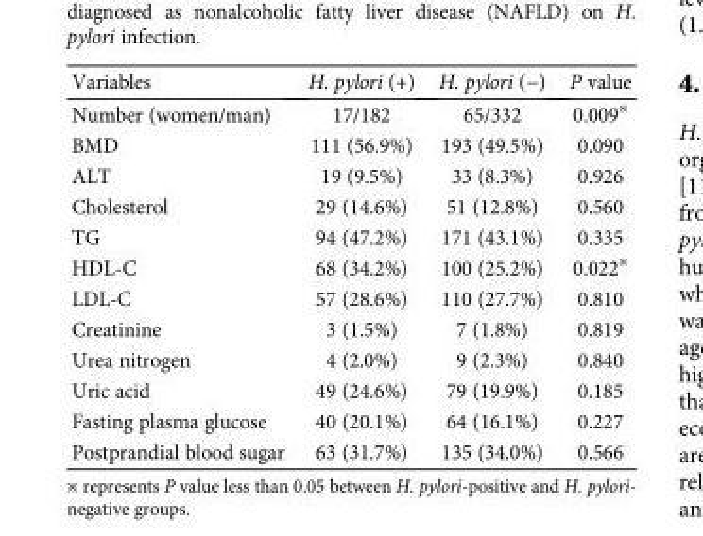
<table><thead><tr><td>Variables</td><td>H. pylori (+)</td><td>H. pylori (−)</td><td>P value</td></tr></thead><tbody><tr><td>Number (women/man)</td><td>17/182</td><td>65/332</td><td>0.009<sup>※</sup></td></tr><tr><td>BMD</td><td>111 (56.9%)</td><td>193 (49.5%)</td><td>0.090</td></tr><tr><td>ALT</td><td>19 (9.5%)</td><td>33 (8.3%)</td><td>0.926</td></tr><tr><td>Cholesterol</td><td>29 (14.6%)</td><td>51 (12.8%)</td><td>0.560</td></tr><tr><td>TG</td><td>94 (47.2%)</td><td>171 (43.1%)</td><td>0.335</td></tr><tr><td>HDL-C</td><td>68 (34.2%)</td><td>100 (25.2%)</td><td>0.022<sup>※</sup></td></tr><tr><td>LDL-C</td><td>57 (28.6%)</td><td>110 (27.7%)</td><td>0.810</td></tr><tr><td>Creatinine</td><td>3 (1.5%)</td><td>7 (1.8%)</td><td>0.819</td></tr><tr><td>Urea nitrogen</td><td>4 (2.0%)</td><td>9 (2.3%)</td><td>0.840</td></tr><tr><td>Uric acid</td><td>49 (24.6%)</td><td>79 (19.9%)</td><td>0.185</td></tr><tr><td>Fasting plasma glucose</td><td>40 (20.1%)</td><td>64 (16.1%)</td><td>0.227</td></tr><tr><td>Postprandial blood sugar</td><td>63 (31.7%)</td><td>135 (34.0%)</td><td>0.566</td></tr></tbody></table>